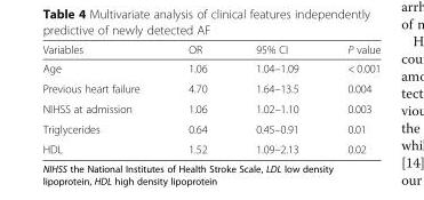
<table><thead><tr><td>Variables</td><td>OR</td><td>95% CI</td><td>P value</td></tr></thead><tbody><tr><td>Age</td><td>1.06</td><td>1.04–1.09</td><td>&lt; 0.001</td></tr><tr><td>Previous heart failure</td><td>4.70</td><td>1.64–13.5</td><td>0.004</td></tr><tr><td>NIHSS at admission</td><td>1.06</td><td>1.02–1.10</td><td>0.003</td></tr><tr><td>Triglycerides</td><td>0.64</td><td>0.45–0.91</td><td>0.01</td></tr><tr><td>HDL</td><td>1.52</td><td>1.09–2.13</td><td>0.02</td></tr></tbody></table>